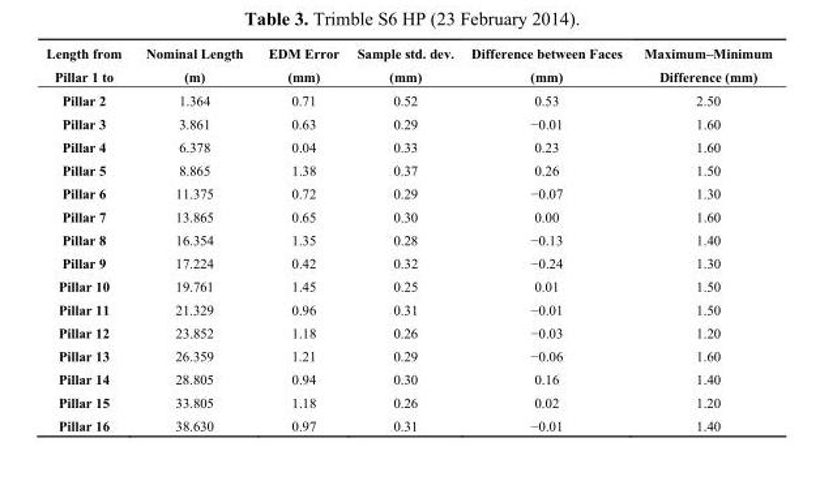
<table><thead><tr><td>Length from Pillar 1 to</td><td>Nominal Length (m)</td><td>EDM Error (mm)</td><td>Sample std. dev. (mm)</td><td>Difference between Faces (mm)</td><td>Maximum–Minimum Difference (mm)</td></tr></thead><tbody><tr><td>Pillar 2</td><td>1.364</td><td>0.71</td><td>0.52</td><td>0.53</td><td>2.50</td></tr><tr><td>Pillar 3</td><td>3.861</td><td>0.63</td><td>0.29</td><td>−0.01</td><td>1.60</td></tr><tr><td>Pillar 4</td><td>6.378</td><td>0.04</td><td>0.33</td><td>0.23</td><td>1.60</td></tr><tr><td>Pillar 5</td><td>8.865</td><td>1.38</td><td>0.37</td><td>0.26</td><td>1.50</td></tr><tr><td>Pillar 6</td><td>11.375</td><td>0.72</td><td>0.29</td><td>−0.07</td><td>1.30</td></tr><tr><td>Pillar 7</td><td>13.865</td><td>0.65</td><td>0.30</td><td>0.00</td><td>1.60</td></tr><tr><td>Pillar 8</td><td>16.354</td><td>1.35</td><td>0.28</td><td>−0.13</td><td>1.40</td></tr><tr><td>Pillar 9</td><td>17.224</td><td>0.42</td><td>0.32</td><td>−0.24</td><td>1.30</td></tr><tr><td>Pillar 10</td><td>19.761</td><td>1.45</td><td>0.25</td><td>0.01</td><td>1.50</td></tr><tr><td>Pillar 11</td><td>21.329</td><td>0.96</td><td>0.31</td><td>−0.01</td><td>1.50</td></tr><tr><td>Pillar 12</td><td>23.852</td><td>1.18</td><td>0.26</td><td>−0.03</td><td>1.20</td></tr><tr><td>Pillar 13</td><td>26.359</td><td>1.21</td><td>0.29</td><td>−0.06</td><td>1.60</td></tr><tr><td>Pillar 14</td><td>28.805</td><td>0.94</td><td>0.30</td><td>0.16</td><td>1.40</td></tr><tr><td>Pillar 15</td><td>33.805</td><td>1.18</td><td>0.26</td><td>0.02</td><td>1.20</td></tr><tr><td>Pillar 16</td><td>38.630</td><td>0.97</td><td>0.31</td><td>−0.01</td><td>1.40</td></tr></tbody></table>